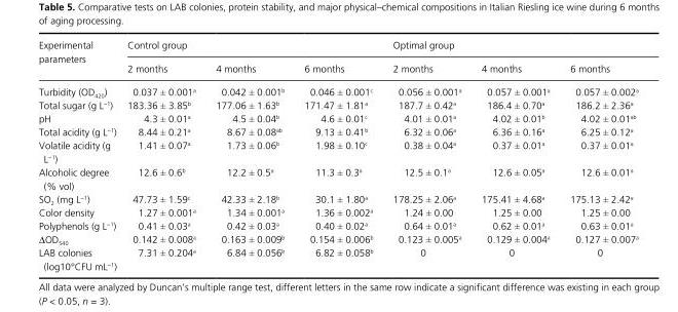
<table><thead><tr><td rowspan="2">Experimental parameters</td><td colspan="3">Control group</td><td colspan="3">Optimal group</td></tr><tr><td>2 months</td><td>4 months</td><td>6 months</td><td>2 months</td><td>4 months</td><td>6 months</td></tr></thead><tbody><tr><td>Turbidity (OD<sub>420</sub>)</td><td>0.037 ± 0.001<sup>a</sup></td><td>0.042 ± 0.001<sup>b</sup></td><td>0.046 ± 0.001<sup>c</sup></td><td>0.056 ± 0.001<sup>a</sup></td><td>0.057 ± 0.001<sup>a</sup></td><td>0.057 ± 0.002<sup>a</sup></td></tr><tr><td>Total sugar (g L<sup>−1</sup>)</td><td>183.36 ± 3.85<sup>b</sup></td><td>177.06 ± 1.63<sup>b</sup></td><td>171.47 ± 1.81<sup>a</sup></td><td>187.7 ± 0.42<sup>a</sup></td><td>186.4 ± 0.70<sup>a</sup></td><td>186.2 ± 2.36<sup>a</sup></td></tr><tr><td>pH</td><td>4.3 ± 0.01<sup>a</sup></td><td>4.5 ± 0.04<sup>b</sup></td><td>4.6 ± 0.01<sup>c</sup></td><td>4.01 ± 0.01<sup>a</sup></td><td>4.02 ± 0.01<sup>b</sup></td><td>4.02 ± 0.01<sup>ab</sup></td></tr><tr><td>Total acidity (g L<sup>−1</sup>)</td><td>8.44 ± 0.21<sup>a</sup></td><td>8.67 ± 0.08<sup>ab</sup></td><td>9.13 ± 0.41<sup>b</sup></td><td>6.32 ± 0.06<sup>a</sup></td><td>6.36 ± 0.16<sup>a</sup></td><td>6.25 ± 0.12<sup>a</sup></td></tr><tr><td>Volatile acidity (g L<sup>−1</sup>)</td><td>1.41 ± 0.07<sup>a</sup></td><td>1.73 ± 0.06<sup>b</sup></td><td>1.98 ± 0.10<sup>c</sup></td><td>0.38 ± 0.04<sup>a</sup></td><td>0.37 ± 0.01<sup>a</sup></td><td>0.37 ± 0.01<sup>a</sup></td></tr><tr><td>Alcoholic degree (% vol)</td><td>12.6 ± 0.6<sup>b</sup></td><td>12.2 ± 0.5<sup>a</sup></td><td>11.3 ± 0.3<sup>a</sup></td><td>12.5 ± 0.1<sup>a</sup></td><td>12.6 ± 0.05<sup>a</sup></td><td>12.6 ± 0.01<sup>a</sup></td></tr><tr><td>SO<sub>2</sub> (mg L<sup>−1</sup>)</td><td>47.73 ± 1.59<sup>c</sup></td><td>42.33 ± 2.18<sup>b</sup></td><td>30.1 ± 1.80<sup>a</sup></td><td>178.25 ± 2.06<sup>a</sup></td><td>175.41 ± 4.68<sup>a</sup></td><td>175.13 ± 2.42<sup>a</sup></td></tr><tr><td>Color density</td><td>1.27 ± 0.001<sup>a</sup></td><td>1.34 ± 0.001<sup>a</sup></td><td>1.36 ± 0.002<sup>a</sup></td><td>1.24 ± 0.00</td><td>1.25 ± 0.00</td><td>1.25 ± 0.00</td></tr><tr><td>Polyphenols (g L<sup>−1</sup>)</td><td>0.41 ± 0.03<sup>a</sup></td><td>0.42 ± 0.03<sup>a</sup></td><td>0.40 ± 0.02<sup>a</sup></td><td>0.64 ± 0.01<sup>a</sup></td><td>0.62 ± 0.01<sup>a</sup></td><td>0.63 ± 0.01<sup>a</sup></td></tr><tr><td>ΔOD540</td><td>0.142 ± 0.008<sup>a</sup></td><td>0.163 ± 0.009<sup>b</sup></td><td>0.154 ± 0.006<sup>b</sup></td><td>0.123 ± 0.005<sup>a</sup></td><td>0.129 ± 0.004<sup>a</sup></td><td>0.127 ± 0.007<sup>a</sup></td></tr><tr><td>LAB colonies (log10°CFU mL<sup>−1</sup>)</td><td>7.31 ± 0.204<sup>a</sup></td><td>6.84 ± 0.056<sup>b</sup></td><td>6.82 ± 0.058<sup>b</sup></td><td>0</td><td>0</td><td>0</td></tr></tbody></table>